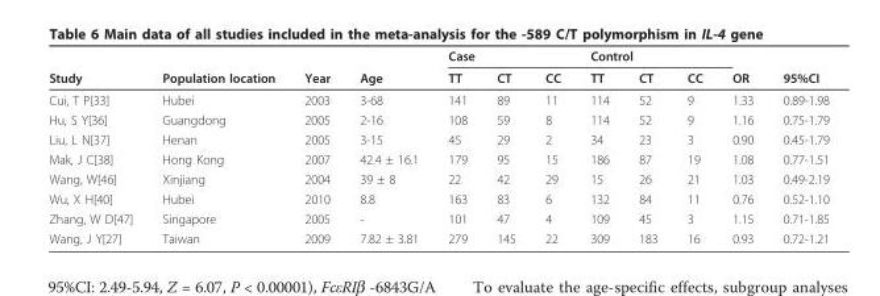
<table><thead><tr><td rowspan="2">Study</td><td rowspan="2">Population location</td><td rowspan="2">Year</td><td rowspan="2">Age</td><td colspan="3">Case</td><td colspan="3">Control</td><td rowspan="2">OR</td><td rowspan="2">95%CI</td></tr><tr><td>TT</td><td>CT</td><td>CC</td><td>TT</td><td>CT</td><td>CC</td></tr></thead><tbody><tr><td>Cui, T P[33]</td><td>Hubei</td><td>2003</td><td>3-68</td><td>141</td><td>89</td><td>11</td><td>114</td><td>52</td><td>9</td><td>1.33</td><td>0.89-1.98</td></tr><tr><td>Hu, S Y[36]</td><td>Guangdong</td><td>2005</td><td>2-16</td><td>108</td><td>59</td><td>8</td><td>114</td><td>52</td><td>9</td><td>1.16</td><td>0.75-1.79</td></tr><tr><td>Liu, L N[37]</td><td>Henan</td><td>2005</td><td>3-15</td><td>45</td><td>29</td><td>2</td><td>34</td><td>23</td><td>3</td><td>0.90</td><td>0.45-1.79</td></tr><tr><td>Mak, J C[38]</td><td>Hong Kong</td><td>2007</td><td>42.4 ± 16.1</td><td>179</td><td>95</td><td>15</td><td>186</td><td>87</td><td>19</td><td>1.08</td><td>0.77-1.51</td></tr><tr><td>Wang, W[46]</td><td>Xinjiang</td><td>2004</td><td>39 ± 8</td><td>22</td><td>42</td><td>29</td><td>15</td><td>26</td><td>21</td><td>1.03</td><td>0.49-2.19</td></tr><tr><td>Wu, X H[40]</td><td>Hubei</td><td>2010</td><td>8.8</td><td>163</td><td>83</td><td>6</td><td>132</td><td>84</td><td>11</td><td>0.76</td><td>0.52-1.10</td></tr><tr><td>Zhang, W D[47]</td><td>Singapore</td><td>2005</td><td>-</td><td>101</td><td>47</td><td>4</td><td>109</td><td>45</td><td>3</td><td>1.15</td><td>0.71-1.85</td></tr><tr><td>Wang, J Y[27]</td><td>Taiwan</td><td>2009</td><td>7.82 ± 3.81</td><td>279</td><td>145</td><td>22</td><td>309</td><td>183</td><td>16</td><td>0.93</td><td>0.72-1.21</td></tr></tbody></table>